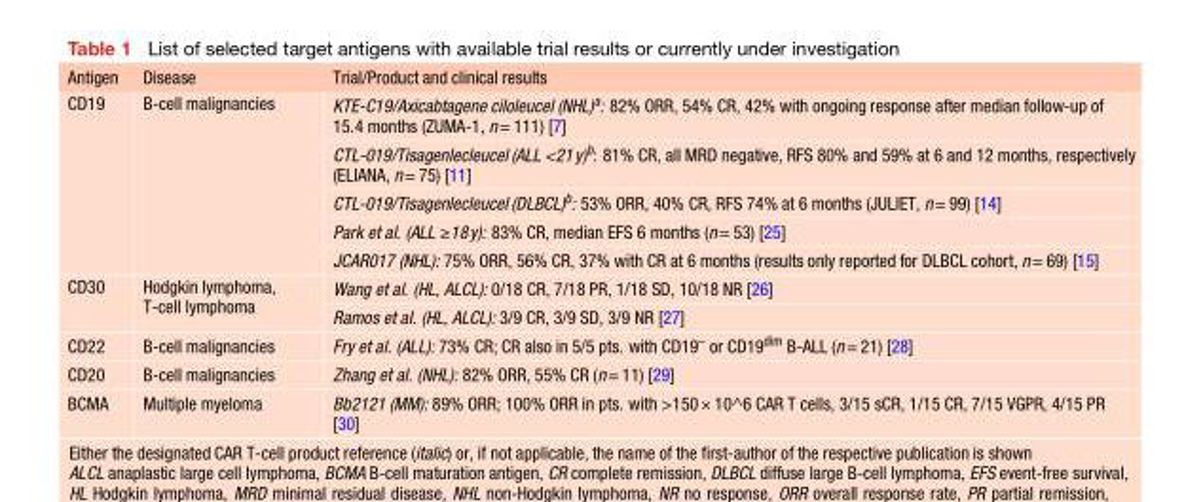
<table><thead><tr><td>Antigen</td><td>Disease</td><td>Trial/Product and clinical results</td></tr></thead><tbody><tr><td rowspan="5">CD19</td><td rowspan="5">B-cell malignancies</td><td>KTE-C19/Axicabtagene ciloleucel (NHL)<sup>a</sup>: 82% ORR, 54% CR, 42% with ongoing response after median follow-up of 15.4 months (ZUMA-1, n= 111) [7]</td></tr><tr><td>CTL-019/Tisagenlecleucel (ALL &lt;21y)<sup>b</sup>: 81% CR, all MRD negative, RFS 80% and 59% at 6 and 12 months, respectively (ELIANA, n= 75) [11]</td></tr><tr><td>CTL-019/Tisagenlecleucel (DLBCL)<sup>b</sup>: 53% ORR, 40% CR, RFS 74% at 6 months (JULIET, n= 99) [14]</td></tr><tr><td>Park et al. (ALL ≥18y): 83% CR, median EFS 6 months (n= 53) [25]</td></tr><tr><td>JCAR017 (NHL): 75% ORR, 56% CR, 37% with CR at 6 months (results only reported for DLBCL cohort, n= 69) [15]</td></tr><tr><td rowspan="2">CD30</td><td rowspan="2">Hodgkin lymphoma, T-cell lymphoma</td><td>Wang et al. (HL, ALCL): 0/18 CR, 7/18 PR, 1/18 SD, 10/18 NR [26]</td></tr><tr><td>Ramos et al. (HL, ALCL): 3/9 CR, 3/9 SD, 3/9 NR [27]</td></tr><tr><td>CD22</td><td>B-cell malignancies</td><td>Fry et al. (ALL): 73% CR; CR also in 5/5 pts. with CD19<sup>–</sup> or CD19<sup>dim</sup> B-ALL (n= 21) [28]</td></tr><tr><td>CD20</td><td>B-cell malignancies</td><td>Zhang et al. (NHL): 82% ORR, 55% CR (n= 11) [29]</td></tr><tr><td>BCMA</td><td>Multiple myeloma</td><td>Bb2121 (MM): 89% ORR; 100% ORR in pts. with &gt;150× 10^6 CAR T cells, 3/15 sCR, 1/15 CR, 7/15 VGPR, 4/15 PR [30]</td></tr></tbody></table>